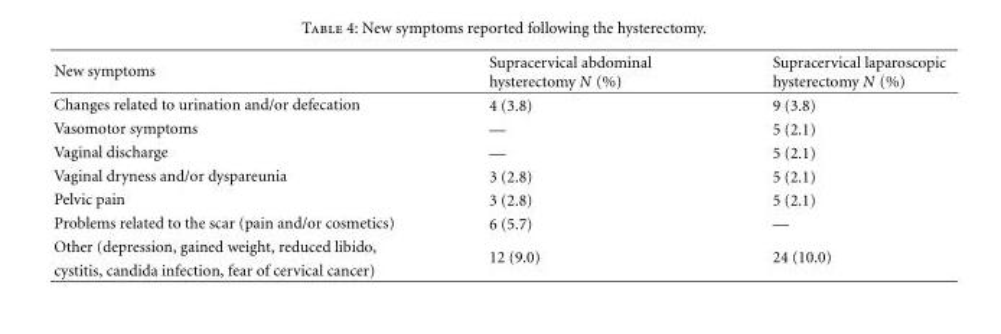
<table><thead><tr><td>New symptoms</td><td>Supracervical abdominal hysterectomy N (%)</td><td>Supracervical laparoscopic hysterectomy N (%)</td></tr></thead><tbody><tr><td>Changes related to urination and/or defecation</td><td>4 (3.8)</td><td>9 (3.8)</td></tr><tr><td>Vasomotor symptoms</td><td>—</td><td>5 (2.1)</td></tr><tr><td>Vaginal discharge</td><td>—</td><td>5 (2.1)</td></tr><tr><td>Vaginal dryness and/or dyspareunia</td><td>3 (2.8)</td><td>5 (2.1)</td></tr><tr><td>Pelvic pain</td><td>3 (2.8)</td><td>5 (2.1)</td></tr><tr><td>Problems related to the scar (pain and/or cosmetics)</td><td>6 (5.7)</td><td>—</td></tr><tr><td>Other (depression, gained weight, reduced libido,</td><td rowspan="2">12 (9.0)</td><td rowspan="2">24 (10.0)</td></tr><tr><td>cystitis, candida infection, fear of cervical cancer)</td></tr></tbody></table>